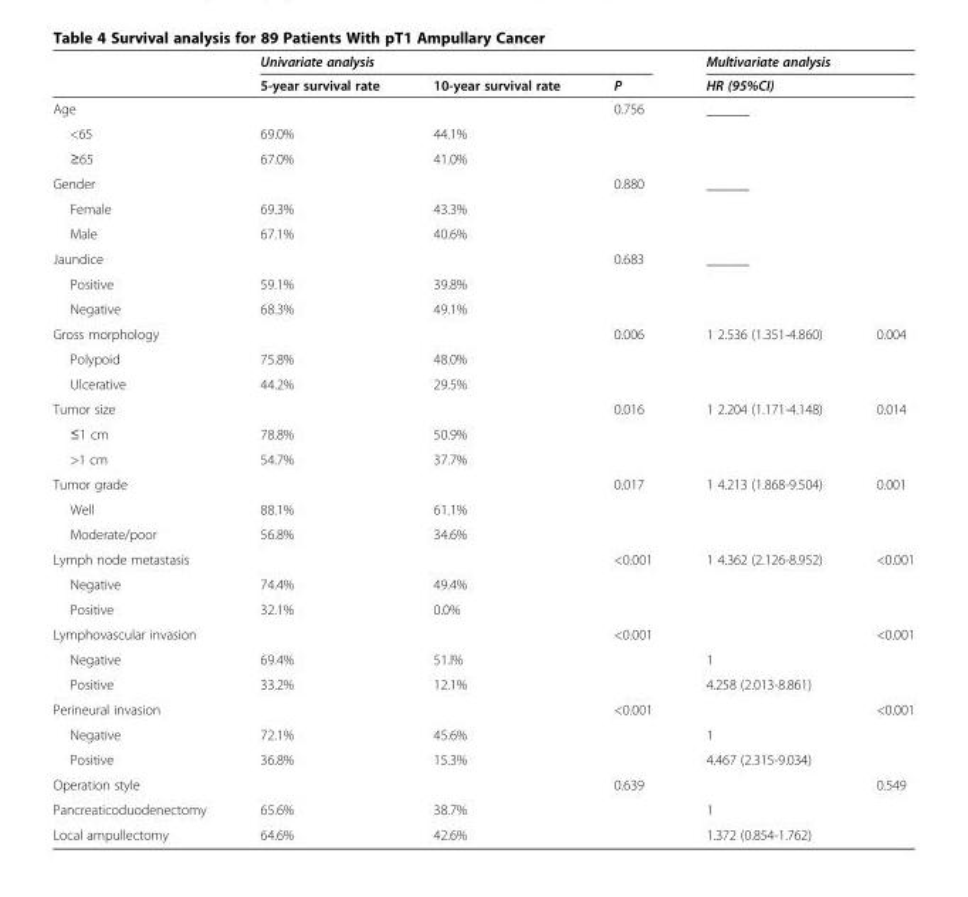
<table><thead><tr><td rowspan="2"></td><td colspan="3">Univariate analysis</td><td colspan="2">Multivariate analysis</td></tr><tr><td>5-year survival rate</td><td>10-year survival rate</td><td>P</td><td>HR (95%CI)</td><td></td></tr></thead><tbody><tr><td>Age</td><td></td><td></td><td>0.756</td><td>______</td><td></td></tr><tr><td>&lt;65</td><td>69.0%</td><td>44.1%</td><td></td><td></td><td></td></tr><tr><td>≥65</td><td>67.0%</td><td>41.0%</td><td></td><td></td><td></td></tr><tr><td>Gender</td><td></td><td></td><td>0.880</td><td>______</td><td></td></tr><tr><td>Female</td><td>69.3%</td><td>43.3%</td><td></td><td></td><td></td></tr><tr><td>Male</td><td>67.1%</td><td>40.6%</td><td></td><td></td><td></td></tr><tr><td>Jaundice</td><td></td><td></td><td>0.683</td><td>______</td><td></td></tr><tr><td>Positive</td><td>59.1%</td><td>39.8%</td><td></td><td></td><td></td></tr><tr><td>Negative</td><td>68.3%</td><td>49.1%</td><td></td><td></td><td></td></tr><tr><td>Gross morphology</td><td></td><td></td><td>0.006</td><td>1 2.536 (1.351-4.860)</td><td>0.004</td></tr><tr><td>Polypoid</td><td>75.8%</td><td>48.0%</td><td></td><td></td><td></td></tr><tr><td>Ulcerative</td><td>44.2%</td><td>29.5%</td><td></td><td></td><td></td></tr><tr><td>Tumor size</td><td></td><td></td><td>0.016</td><td>1 2.204 (1.171-4.148)</td><td>0.014</td></tr><tr><td>≤1 cm</td><td>78.8%</td><td>50.9%</td><td></td><td></td><td></td></tr><tr><td>&gt;1 cm</td><td>54.7%</td><td>37.7%</td><td></td><td></td><td></td></tr><tr><td>Tumor grade</td><td></td><td></td><td>0.017</td><td>1 4.213 (1.868-9.504)</td><td>0.001</td></tr><tr><td>Well</td><td>88.1%</td><td>61.1%</td><td></td><td></td><td></td></tr><tr><td>Moderate/poor</td><td>56.8%</td><td>34.6%</td><td></td><td></td><td></td></tr><tr><td>Lymph node metastasis</td><td></td><td></td><td>&lt;0.001</td><td>1 4.362 (2.126-8.952)</td><td>&lt;0.001</td></tr><tr><td>Negative</td><td>74.4%</td><td>49.4%</td><td></td><td></td><td></td></tr><tr><td>Positive</td><td>32.1%</td><td>0.0%</td><td></td><td></td><td></td></tr><tr><td>Lymphovascular invasion</td><td></td><td></td><td>&lt;0.001</td><td></td><td>&lt;0.001</td></tr><tr><td>Negative</td><td>69.4%</td><td>51.l%</td><td></td><td>1</td><td></td></tr><tr><td>Positive</td><td>33.2%</td><td>12.1%</td><td></td><td>4.258 (2.013-8.861)</td><td></td></tr><tr><td>Perineural invasion</td><td></td><td></td><td>&lt;0.001</td><td></td><td>&lt;0.001</td></tr><tr><td>Negative</td><td>72.1%</td><td>45.6%</td><td></td><td>1</td><td></td></tr><tr><td>Positive</td><td>36.8%</td><td>15.3%</td><td></td><td>4.467 (2.315-9.034)</td><td></td></tr><tr><td>Operation style</td><td></td><td></td><td>0.639</td><td></td><td>0.549</td></tr><tr><td>Pancreaticoduodenectomy</td><td>65.6%</td><td>38.7%</td><td></td><td>1</td><td></td></tr><tr><td>Local ampullectomy</td><td>64.6%</td><td>42.6%</td><td></td><td>1.372 (0.854-1.762)</td><td></td></tr></tbody></table>